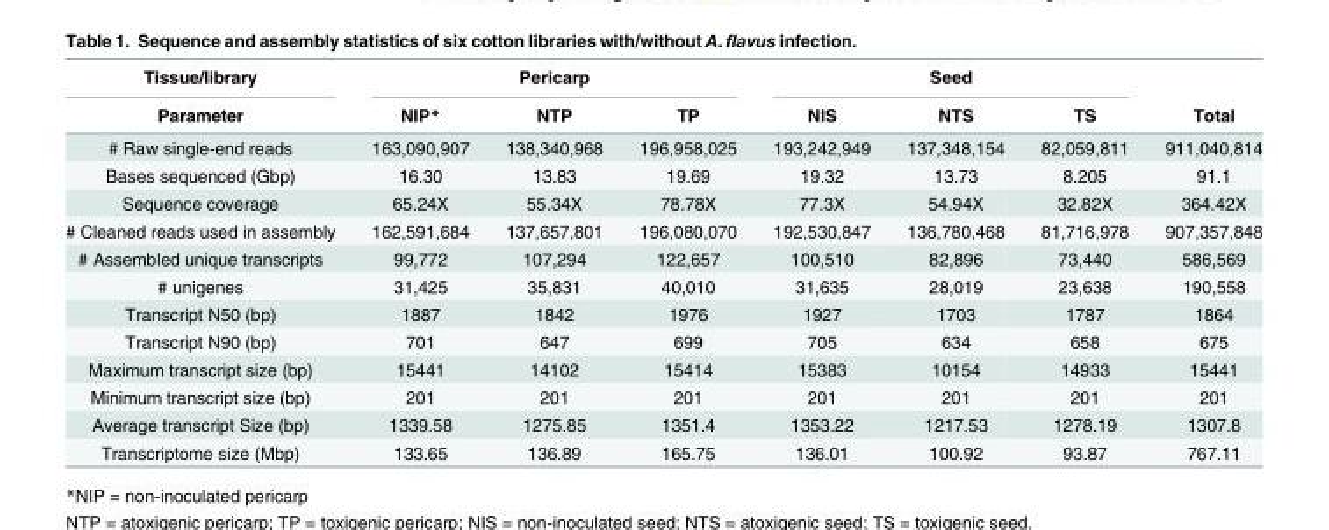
<table><thead><tr><td rowspan="2">Tissue/library Parameter</td><td colspan="3">Pericarp</td><td colspan="3">Seed</td><td rowspan="2">Total</td></tr><tr><td>NIP*</td><td>NTP</td><td>TP</td><td>NIS</td><td>NTS</td><td>TS</td></tr></thead><tbody><tr><td># Raw single-end reads</td><td>163,090,907</td><td>138,340,968</td><td>196,958,025</td><td>193,242,949</td><td>137,348,154</td><td>82,059,811</td><td>911,040,814</td></tr><tr><td>Bases sequenced (Gbp)</td><td>16.30</td><td>13.83</td><td>19.69</td><td>19.32</td><td>13.73</td><td>8.205</td><td>91.1</td></tr><tr><td>Sequence coverage</td><td>65.24X</td><td>55.34X</td><td>78.78X</td><td>77.3X</td><td>54.94X</td><td>32.82X</td><td>364.42X</td></tr><tr><td># Cleaned reads used in assembly</td><td>162,591,684</td><td>137,657,801</td><td>196,080,070</td><td>192,530,847</td><td>136,780,468</td><td>81,716,978</td><td>907,357,848</td></tr><tr><td># Assembled unique transcripts</td><td>99,772</td><td>107,294</td><td>122,657</td><td>100,510</td><td>82,896</td><td>73,440</td><td>586,569</td></tr><tr><td># unigenes</td><td>31,425</td><td>35,831</td><td>40,010</td><td>31,635</td><td>28,019</td><td>23,638</td><td>190,558</td></tr><tr><td>Transcript N50 (bp)</td><td>1887</td><td>1842</td><td>1976</td><td>1927</td><td>1703</td><td>1787</td><td>1864</td></tr><tr><td>Transcript N90 (bp)</td><td>701</td><td>647</td><td>699</td><td>705</td><td>634</td><td>658</td><td>675</td></tr><tr><td>Maximum transcript size (bp)</td><td>15441</td><td>14102</td><td>15414</td><td>15383</td><td>10154</td><td>14933</td><td>15441</td></tr><tr><td>Minimum transcript size (bp)</td><td>201</td><td>201</td><td>201</td><td>201</td><td>201</td><td>201</td><td>201</td></tr><tr><td>Average transcript Size (bp)</td><td>1339.58</td><td>1275.85</td><td>1351.4</td><td>1353.22</td><td>1217.53</td><td>1278.19</td><td>1307.8</td></tr><tr><td>Transcriptome size (Mbp)</td><td>133.65</td><td>136.89</td><td>165.75</td><td>136.01</td><td>100.92</td><td>93.87</td><td>767.11</td></tr></tbody></table>